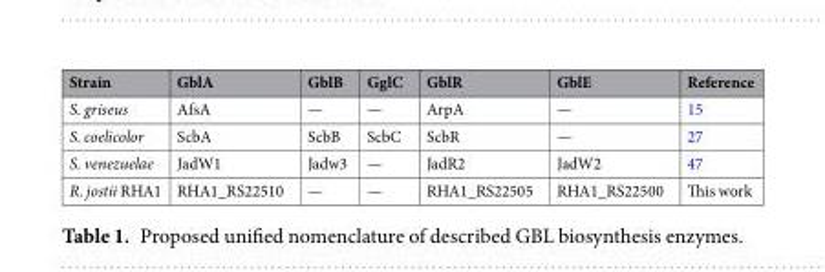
<table><thead><tr><td>Strain</td><td>GblA</td><td>GblB</td><td>GglC</td><td>GblR</td><td>GblE</td><td>Reference</td></tr></thead><tbody><tr><td>S. griseus</td><td>AfsA</td><td>—</td><td>—</td><td>ArpA</td><td>—</td><td>15</td></tr><tr><td>S. coelicolor</td><td>ScbA</td><td>ScbB</td><td>ScbC</td><td>ScbR</td><td>—</td><td>27</td></tr><tr><td>S. venezuelae</td><td>JadW1</td><td>Jadw3</td><td>—</td><td>JadR2</td><td>JadW2</td><td>47</td></tr><tr><td>R. jostii RHA1</td><td>RHA1_RS22510</td><td>—</td><td>—</td><td>RHA1_RS22505</td><td>RHA1_RS22500</td><td>This work</td></tr></tbody></table>